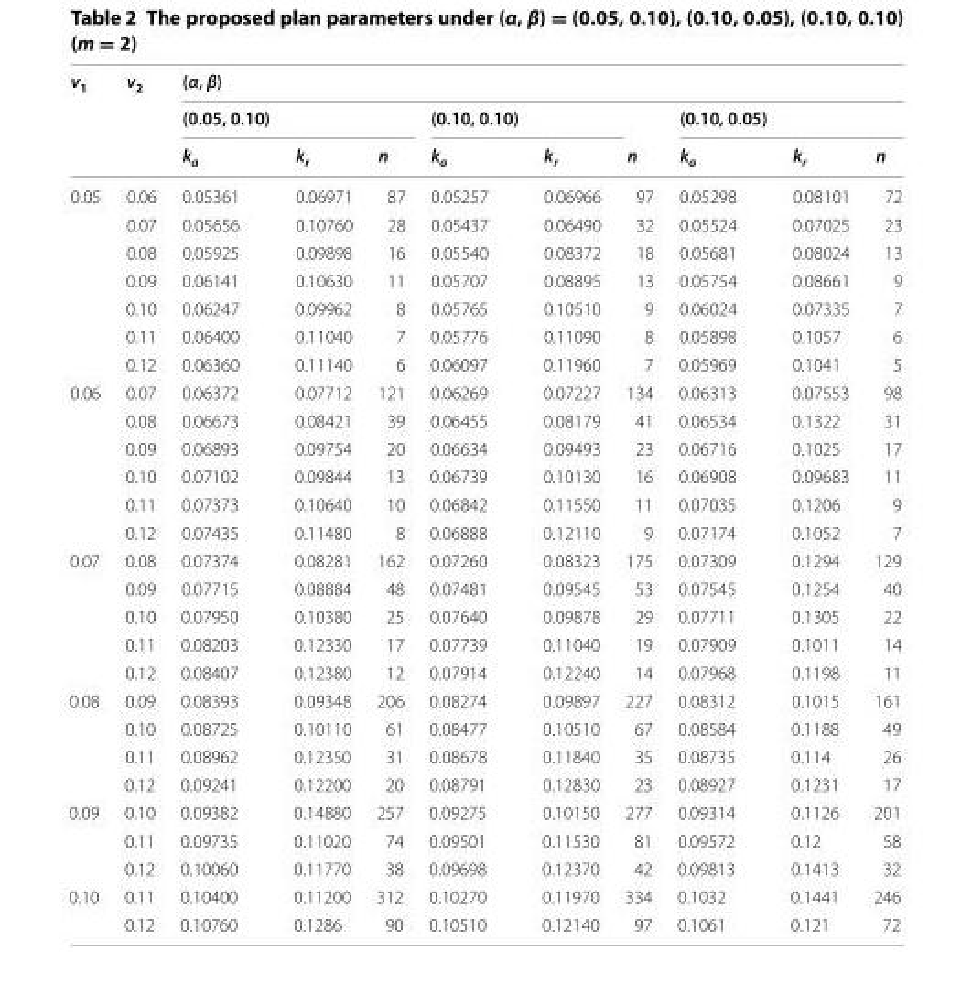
<table><thead><tr><td rowspan="3">v<sub>1</sub></td><td rowspan="3">v<sub>2</sub></td><td colspan="9">(α, β)</td></tr><tr><td colspan="3">(0.05, 0.10)</td><td colspan="3">(0.10, 0.10)</td><td colspan="3">(0.10, 0.05)</td></tr><tr><td>k<sub>a</sub></td><td>k<sub>r</sub></td><td>n</td><td>k<sub>a</sub></td><td>k<sub>r</sub></td><td>n</td><td>k<sub>a</sub></td><td>k<sub>r</sub></td><td>n</td></tr></thead><tbody><tr><td rowspan="7">0.05</td><td>0.06</td><td>0.05361</td><td>0.06971</td><td>87</td><td>0.05257</td><td>0.06966</td><td>97</td><td>0.05298</td><td>0.08101</td><td>72</td></tr><tr><td>0.07</td><td>0.05656</td><td>0.10760</td><td>28</td><td>0.05437</td><td>0.06490</td><td>32</td><td>0.05524</td><td>0.07025</td><td>23</td></tr><tr><td>0.08</td><td>0.05925</td><td>0.09898</td><td>16</td><td>0.05540</td><td>0.08372</td><td>18</td><td>0.05681</td><td>0.08024</td><td>13</td></tr><tr><td>0.09</td><td>0.06141</td><td>0.10630</td><td>11</td><td>0.05707</td><td>0.08895</td><td>13</td><td>0.05754</td><td>0.08661</td><td>9</td></tr><tr><td>0.10</td><td>0.06247</td><td>0.09962</td><td>8</td><td>0.05765</td><td>0.10510</td><td>9</td><td>0.06024</td><td>0.07335</td><td>7</td></tr><tr><td>0.11</td><td>0.06400</td><td>0.11040</td><td>7</td><td>0.05776</td><td>0.11090</td><td>8</td><td>0.05898</td><td>0.1057</td><td>6</td></tr><tr><td>0.12</td><td>0.06360</td><td>0.11140</td><td>6</td><td>0.06097</td><td>0.11960</td><td>7</td><td>0.05969</td><td>0.1041</td><td>5</td></tr><tr><td rowspan="6">0.06</td><td>0.07</td><td>0.06372</td><td>0.07712</td><td>121</td><td>0.06269</td><td>0.07227</td><td>134</td><td>0.06313</td><td>0.07553</td><td>98</td></tr><tr><td>0.08</td><td>0.06673</td><td>0.08421</td><td>39</td><td>0.06455</td><td>0.08179</td><td>41</td><td>0.06534</td><td>0.1322</td><td>31</td></tr><tr><td>0.09</td><td>0.06893</td><td>0.09754</td><td>20</td><td>0.06634</td><td>0.09493</td><td>23</td><td>0.06716</td><td>0.1025</td><td>17</td></tr><tr><td>0.10</td><td>0.07102</td><td>0.09844</td><td>13</td><td>0.06739</td><td>0.10130</td><td>16</td><td>0.06908</td><td>0.09683</td><td>11</td></tr><tr><td>0.11</td><td>0.07373</td><td>0.10640</td><td>10</td><td>0.06842</td><td>0.11550</td><td>11</td><td>0.07035</td><td>0.1206</td><td>9</td></tr><tr><td>0.12</td><td>0.07435</td><td>0.11480</td><td>8</td><td>0.06888</td><td>0.12110</td><td>9</td><td>0.07174</td><td>0.1052</td><td>7</td></tr><tr><td rowspan="5">0.07</td><td>0.08</td><td>0.07374</td><td>0.08281</td><td>162</td><td>0.07260</td><td>0.08323</td><td>175</td><td>0.07309</td><td>0.1294</td><td>129</td></tr><tr><td>0.09</td><td>0.07715</td><td>0.08884</td><td>48</td><td>0.07481</td><td>0.09545</td><td>53</td><td>0.07545</td><td>0.1254</td><td>40</td></tr><tr><td>0.10</td><td>0.07950</td><td>0.10380</td><td>25</td><td>0.07640</td><td>0.09878</td><td>29</td><td>0.07711</td><td>0.1305</td><td>22</td></tr><tr><td>0.11</td><td>0.08203</td><td>0.12330</td><td>17</td><td>0.07739</td><td>0.11040</td><td>19</td><td>0.07909</td><td>0.1011</td><td>14</td></tr><tr><td>0.12</td><td>0.08407</td><td>0.12380</td><td>12</td><td>0.07914</td><td>0.12240</td><td>14</td><td>0.07968</td><td>0.1198</td><td>11</td></tr><tr><td rowspan="4">0.08</td><td>0.09</td><td>0.08393</td><td>0.09348</td><td>206</td><td>0.08274</td><td>0.09897</td><td>227</td><td>0.08312</td><td>0.1015</td><td>161</td></tr><tr><td>0.10</td><td>0.08725</td><td>0.10110</td><td>61</td><td>0.08477</td><td>0.10510</td><td>67</td><td>0.08584</td><td>0.1188</td><td>49</td></tr><tr><td>0.11</td><td>0.08962</td><td>0.12350</td><td>31</td><td>0.08678</td><td>0.11840</td><td>35</td><td>0.08735</td><td>0.114</td><td>26</td></tr><tr><td>0.12</td><td>0.09241</td><td>0.12200</td><td>20</td><td>0.08791</td><td>0.12830</td><td>23</td><td>0.08927</td><td>0.1231</td><td>17</td></tr><tr><td rowspan="3">0.09</td><td>0.10</td><td>0.09382</td><td>0.14880</td><td>257</td><td>0.09275</td><td>0.10150</td><td>277</td><td>0.09314</td><td>0.1126</td><td>201</td></tr><tr><td>0.11</td><td>0.09735</td><td>0.11020</td><td>74</td><td>0.09501</td><td>0.11530</td><td>81</td><td>0.09572</td><td>0.12</td><td>58</td></tr><tr><td>0.12</td><td>0.10060</td><td>0.11770</td><td>38</td><td>0.09698</td><td>0.12370</td><td>42</td><td>0.09813</td><td>0.1413</td><td>32</td></tr><tr><td rowspan="2">0.10</td><td>0.11</td><td>0.10400</td><td>0.11200</td><td>312</td><td>0.10270</td><td>0.11970</td><td>334</td><td>0.1032</td><td>0.1441</td><td>246</td></tr><tr><td>0.12</td><td>0.10760</td><td>0.1286</td><td>90</td><td>0.10510</td><td>0.12140</td><td>97</td><td>0.1061</td><td>0.121</td><td>72</td></tr></tbody></table>